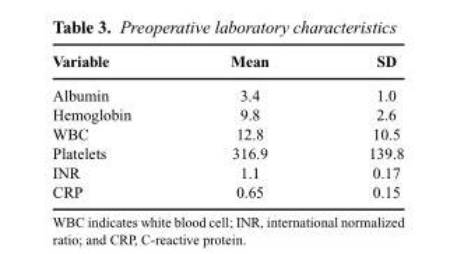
<table><thead><tr><td>Variable</td><td>Mean</td><td>SD</td></tr></thead><tbody><tr><td>Albumin</td><td>3.4</td><td>1.0</td></tr><tr><td>Hemoglobin</td><td>9.8</td><td>2.6</td></tr><tr><td>WBC</td><td>12.8</td><td>10.5</td></tr><tr><td>Platelets</td><td>316.9</td><td>139.8</td></tr><tr><td>INR</td><td>1.1</td><td>0.17</td></tr><tr><td>CRP</td><td>0.65</td><td>0.15</td></tr></tbody></table>